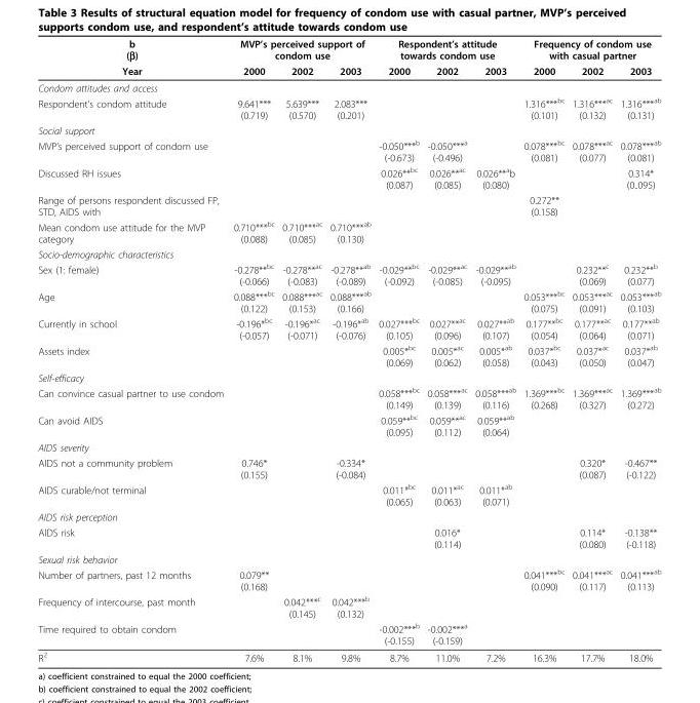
<table><thead><tr><td rowspan="2">b (β) Year</td><td colspan="3">MVP’s perceived support of condom use</td><td colspan="3">Respondent’s attitude towards condom use</td><td colspan="3">Frequency of condom use with casual partner</td></tr><tr><td>2000</td><td>2002</td><td>2003</td><td>2000</td><td>2002</td><td>2003</td><td>2000</td><td>2002</td><td>2003</td></tr></thead><tbody><tr><td colspan="10">Condom attitudes and access</td></tr><tr><td>Respondent’s condom attitude</td><td>9.641*** (0.719)</td><td>5.639*** (0.570)</td><td>2.083*** (0.201)</td><td></td><td></td><td></td><td>1.316***<sup>bc</sup> (0.101)</td><td>1.316***<sup>ac</sup> (0.132)</td><td>1.316***<sup>ab</sup> (0.131)</td></tr><tr><td colspan="10">Social support</td></tr><tr><td>MVP’s perceived support of condom use</td><td></td><td></td><td></td><td>-0.050***<sup>b</sup> (-0.673)</td><td>-0.050***<sup>a</sup> (-0.496)</td><td></td><td>0.078***<sup>bc</sup> (0.081)</td><td>0.078***<sup>ac</sup> (0.077)</td><td>0.078***<sup>ab</sup> (0.081)</td></tr><tr><td>Discussed RH issues</td><td></td><td></td><td></td><td>0.026**<sup>bc</sup> (0.087)</td><td>0.026**<sup>ac</sup> (0.085)</td><td>0.026**<sup>a</sup>b (0.080)</td><td></td><td></td><td>0.314* (0..095)</td></tr><tr><td>Range of persons respondent discussed FP, STD, AIDS with</td><td></td><td></td><td></td><td></td><td></td><td></td><td>0.272** (0.158)</td><td></td><td></td></tr><tr><td>Mean condom use attitude for the MVP category</td><td>0.710***<sup>bc</sup> (0.088)</td><td>0.710***<sup>ac</sup> (0.085)</td><td>0.710***<sup>ab</sup> (0.130)</td><td></td><td></td><td></td><td></td><td></td><td></td></tr><tr><td colspan="10">Socio-demographic characteristics</td></tr><tr><td>Sex (1: female)</td><td>-0.278**<sup>bc</sup> (-0.066)</td><td>-0.278**<sup>ac</sup> (-0.083)</td><td>-0.278**<sup>ab</sup> (-0.089)</td><td>-0.029**<sup>bc</sup> (-0.092)</td><td>-0.029**<sup>ac</sup> (-0.085)</td><td>-0.029**<sup>ab</sup> (-0.095)</td><td></td><td>0.232**<sup>c</sup> (0.069)</td><td>0.232**<sup>b</sup> (0.077)</td></tr><tr><td>Age</td><td>0.088***<sup>bc</sup> (0.122)</td><td>0.088***<sup>ac</sup> (0.153)</td><td>0.088***<sup>ab</sup> (0.166)</td><td></td><td></td><td></td><td>0.053***<sup>bc</sup> (0.075)</td><td>0.053***<sup>ac</sup> (0.091)</td><td>0.053***<sup>ab</sup> (0.103)</td></tr><tr><td>Currently in school</td><td>-0.196*<sup>bc</sup> (-0.057)</td><td>-0.196*<sup>ac</sup> (-0.071)</td><td>-0.196*<sup>ab</sup> (-0.076)</td><td>0.027***<sup>bc</sup> (0.105)</td><td>0.027**<sup>ac</sup> (0.096)</td><td>0.027**<sup>ab</sup> (0.107)</td><td>0.177**<sup>bc</sup> (0.054)</td><td>0.177**<sup>ac</sup> (0.064)</td><td>0.177**<sup>ab</sup> (0.071)</td></tr><tr><td>Assets index</td><td></td><td></td><td></td><td>0.005*<sup>bc</sup> (0.069)</td><td>0.005*<sup>ac</sup> (0.062)</td><td>0.005*<sup>ab</sup> (0.058)</td><td>0.037*<sup>bc</sup> (0.043)</td><td>0.037*<sup>ac</sup> (0.050)</td><td>0.037*<sup>ab</sup> (0.047)</td></tr><tr><td colspan="10">Self-efficacy</td></tr><tr><td>Can convince casual partner to use condom</td><td></td><td></td><td></td><td>0.058***<sup>bc</sup> (0.149)</td><td>0.058***<sup>ac</sup> (0.139)</td><td>0.058***<sup>ab</sup> (0.116)</td><td>1.369***<sup>bc</sup> (0.268)</td><td>1.369***<sup>ac</sup> (0.327)</td><td>1.369***<sup>ab</sup> (0.272)</td></tr><tr><td>Can avoid AIDS</td><td></td><td></td><td></td><td>0.059**<sup>bc</sup> (0.095)</td><td>0.059**<sup>ac</sup> (0.112)</td><td>0.059**<sup>ab</sup> (0.064)</td><td></td><td></td><td></td></tr><tr><td colspan="10">AIDS severity</td></tr><tr><td>AIDS not a community problem</td><td>0.746* (0.155)</td><td></td><td>-0.334* (-0.084)</td><td></td><td></td><td></td><td></td><td>0.320* (0.087)</td><td>-0.467** (-0.122)</td></tr><tr><td>AIDS curable/not terminal</td><td></td><td></td><td></td><td>0.011*<sup>bc</sup> (0.065)</td><td>0.011*<sup>ac</sup> (0.063)</td><td>0.011*<sup>ab</sup> (0.071)</td><td></td><td></td><td></td></tr><tr><td colspan="10">AIDS risk perception</td></tr><tr><td>AIDS risk</td><td></td><td></td><td></td><td></td><td>0.016* (0.114)</td><td></td><td></td><td>0.114* (0.080)</td><td>-0.138** (-0.118)</td></tr><tr><td colspan="10">Sexual risk behavior</td></tr><tr><td>Number of partners, past 12 months</td><td>0.079** (0.168)</td><td></td><td></td><td></td><td></td><td></td><td>0.041***<sup>bc</sup> (0.090)</td><td>0.041***<sup>ac</sup> (0.117)</td><td>0.041***<sup>ab</sup> (0.113)</td></tr><tr><td>Frequency of intercourse, past month</td><td></td><td>0.042***<sup>c</sup> (0.145)</td><td>0.042***<sup>b</sup> (0.132)</td><td></td><td></td><td></td><td></td><td></td><td></td></tr><tr><td>Time required to obtain condom</td><td></td><td></td><td></td><td>-0.002***<sup>b</sup> (-0.155)</td><td>-0.002***<sup>a</sup> (-0.159)</td><td></td><td></td><td></td><td></td></tr><tr><td>R<sup>2</sup></td><td>7.6%</td><td>8.1%</td><td>9.8%</td><td>8.7%</td><td>11.0%</td><td>7.2%</td><td>16.3%</td><td>17.7%</td><td>18.0%</td></tr></tbody></table>